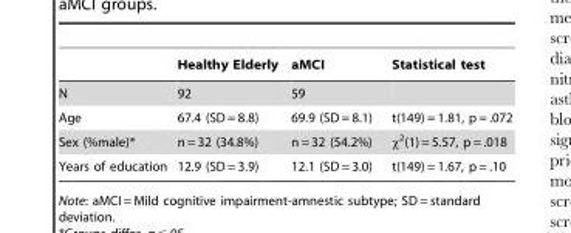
<table><thead><tr><td></td><td>Healthy Elderly</td><td>aMCI</td><td>Statistical test</td></tr></thead><tbody><tr><td>N</td><td>92</td><td>59</td><td></td></tr><tr><td>Age</td><td>67.4 (SD = 8.8)</td><td>69.9 (SD = 8.1)</td><td>t(149) = 1.81, p = .072</td></tr><tr><td>Sex (%male)*</td><td>n = 32 (34.8%)</td><td>n = 32 (54.2%)</td><td>χ<sup>2</sup>(1) = 5.57, p = .018</td></tr><tr><td>Years of education</td><td>12.9 (SD = 3.9)</td><td>12.1 (SD = 3.0)</td><td>t(149) = 1.67, p = .10</td></tr></tbody></table>